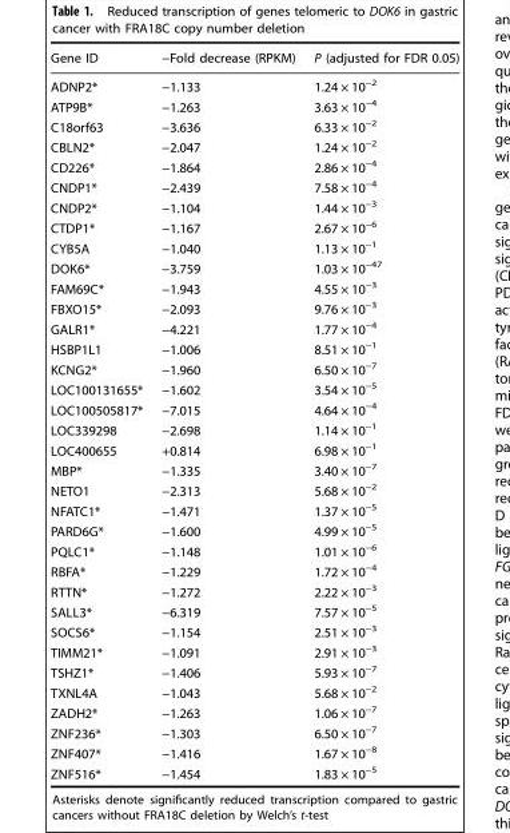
<table><thead><tr><td>Gene ID</td><td>−Fold decrease (RPKM)</td><td>P (adjusted for FDR 0.05)</td></tr></thead><tbody><tr><td>ADNP2*</td><td>−1.133</td><td>1.24 × 10<sup>−2</sup></td></tr><tr><td>ATP9B*</td><td>−1.263</td><td>3.63 × 10<sup>−4</sup></td></tr><tr><td>C18orf63</td><td>−3.636</td><td>6.33 × 10<sup>−2</sup></td></tr><tr><td>CBLN2*</td><td>−2.047</td><td>1.24 × 10<sup>−2</sup></td></tr><tr><td>CD226*</td><td>−1.864</td><td>2.86 × 10<sup>−4</sup></td></tr><tr><td>CNDP1*</td><td>−2.439</td><td>7.58 × 10<sup>−4</sup></td></tr><tr><td>CNDP2*</td><td>−1.104</td><td>1.44 × 10<sup>−3</sup></td></tr><tr><td>CTDP1*</td><td>−1.167</td><td>2.67 × 10<sup>−6</sup></td></tr><tr><td>CYB5A</td><td>−1.040</td><td>1.13 × 10<sup>−1</sup></td></tr><tr><td>DOK6*</td><td>−3.759</td><td>1.03 × 10<sup>−47</sup></td></tr><tr><td>FAM69C*</td><td>−1.943</td><td>4.55 × 10<sup>−3</sup></td></tr><tr><td>FBXO15*</td><td>−2.093</td><td>9.76 × 10<sup>−3</sup></td></tr><tr><td>GALR1*</td><td>−4.221</td><td>1.77 × 10<sup>−4</sup></td></tr><tr><td>HSBP1L1</td><td>−1.006</td><td>8.51 × 10<sup>−1</sup></td></tr><tr><td>KCNG2*</td><td>−1.960</td><td>6.50 × 10<sup>−7</sup></td></tr><tr><td>LOC100131655*</td><td>−1.602</td><td>3.54 × 10<sup>−5</sup></td></tr><tr><td>LOC100505817*</td><td>−7.015</td><td>4.64 × 10<sup>−4</sup></td></tr><tr><td>LOC339298</td><td>−2.698</td><td>1.14 × 10<sup>−1</sup></td></tr><tr><td>LOC400655</td><td>+0.814</td><td>6.98 × 10<sup>−1</sup></td></tr><tr><td>MBP*</td><td>−1.335</td><td>3.40 × 10<sup>−7</sup></td></tr><tr><td>NETO1</td><td>−2.313</td><td>5.68 × 10<sup>−2</sup></td></tr><tr><td>NFATC1*</td><td>−1.471</td><td>1.37 × 10<sup>−5</sup></td></tr><tr><td>PARD6G*</td><td>−1.600</td><td>4.99 × 10<sup>−5</sup></td></tr><tr><td>PQLC1*</td><td>−1.148</td><td>1.01 × 10<sup>−6</sup></td></tr><tr><td>RBFA*</td><td>−1.229</td><td>1.72 × 10<sup>−4</sup></td></tr><tr><td>RTTN*</td><td>−1.272</td><td>2.22 × 10<sup>−3</sup></td></tr><tr><td>SALL3*</td><td>−6.319</td><td>7.57 × 10<sup>−5</sup></td></tr><tr><td>SOCS6*</td><td>−1.154</td><td>2.51 × 10<sup>−3</sup></td></tr><tr><td>TIMM21*</td><td>−1.091</td><td>2.91 × 10<sup>−3</sup></td></tr><tr><td>TSHZ1*</td><td>−1.406</td><td>5.93 × 10<sup>−7</sup></td></tr><tr><td>TXNL4A</td><td>−1.043</td><td>5.68 × 10<sup>−2</sup></td></tr><tr><td>ZADH2*</td><td>−1.263</td><td>1.06 × 10<sup>−7</sup></td></tr><tr><td>ZNF236*</td><td>−1.303</td><td>6.50 × 10<sup>−7</sup></td></tr><tr><td>ZNF407*</td><td>−1.416</td><td>1.67 × 10<sup>−8</sup></td></tr><tr><td>ZNF516*</td><td>−1.454</td><td>1.83 × 10<sup>−5</sup></td></tr></tbody></table>